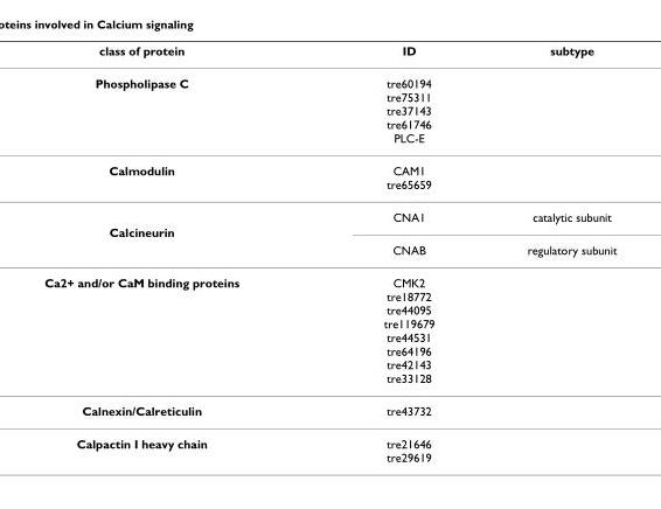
<table><thead><tr><td>class of protein</td><td>ID</td><td>subtype</td></tr></thead><tbody><tr><td>Phospholipase C</td><td>tre60194 tre75311 tre37143 tre61746 PLC-E</td><td></td></tr><tr><td rowspan="2">Calmodulin</td><td>CAM1 tre65659</td><td></td></tr><tr><td>CNA1</td><td>catalytic subunit</td></tr><tr><td colspan="3">Calcineurin</td></tr><tr><td></td><td>CNAB</td><td>regulatory subunit</td></tr><tr><td>Ca2+ and/or CaM binding proteins</td><td>CMK2 tre18772 tre44095 tre119679 tre44531 tre64196 tre42143 tre33128</td><td></td></tr><tr><td>Calnexin/Calreticulin</td><td>tre43732</td><td></td></tr><tr><td>Calpactin I heavy chain</td><td>tre21646 tre29619</td><td></td></tr></tbody></table>